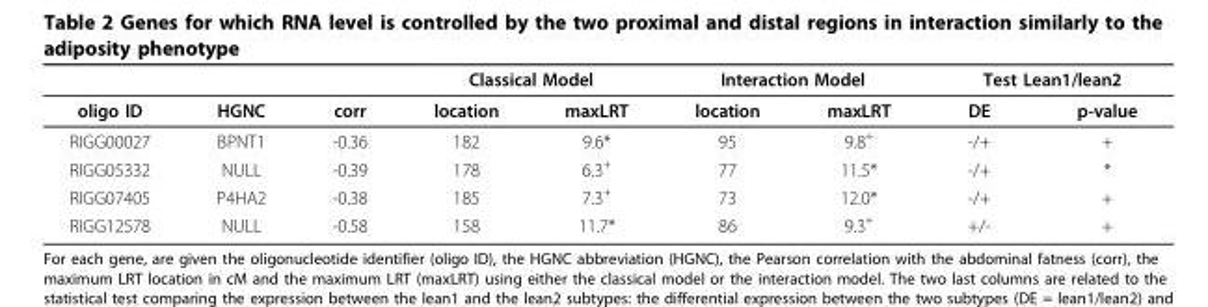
<table><thead><tr><td rowspan="2">oligo ID</td><td rowspan="2">HGNC</td><td rowspan="2">corr</td><td colspan="2">Classical Model</td><td colspan="2">Interaction Model</td><td colspan="2">Test Lean1/lean2</td></tr><tr><td>location</td><td>maxLRT</td><td>location</td><td>maxLRT</td><td>DE</td><td>p-value</td></tr></thead><tbody><tr><td>RIGG00027</td><td>BPNT1</td><td>-0.36</td><td>182</td><td>9.6*</td><td>95</td><td>9.8<sup>+</sup></td><td>-/+</td><td>+</td></tr><tr><td>RIGG05332</td><td>NULL</td><td>-0.39</td><td>178</td><td>6.3<sup>+</sup></td><td>77</td><td>11.5*</td><td>-/+</td><td>*</td></tr><tr><td>RIGG07405</td><td>P4HA2</td><td>-0.38</td><td>185</td><td>7.3<sup>+</sup></td><td>73</td><td>12.0*</td><td>-/+</td><td>+</td></tr><tr><td>RIGG12578</td><td>NULL</td><td>-0.58</td><td>158</td><td>11.7*</td><td>86</td><td>9.3<sup>+</sup></td><td>+/-</td><td>+</td></tr></tbody></table>